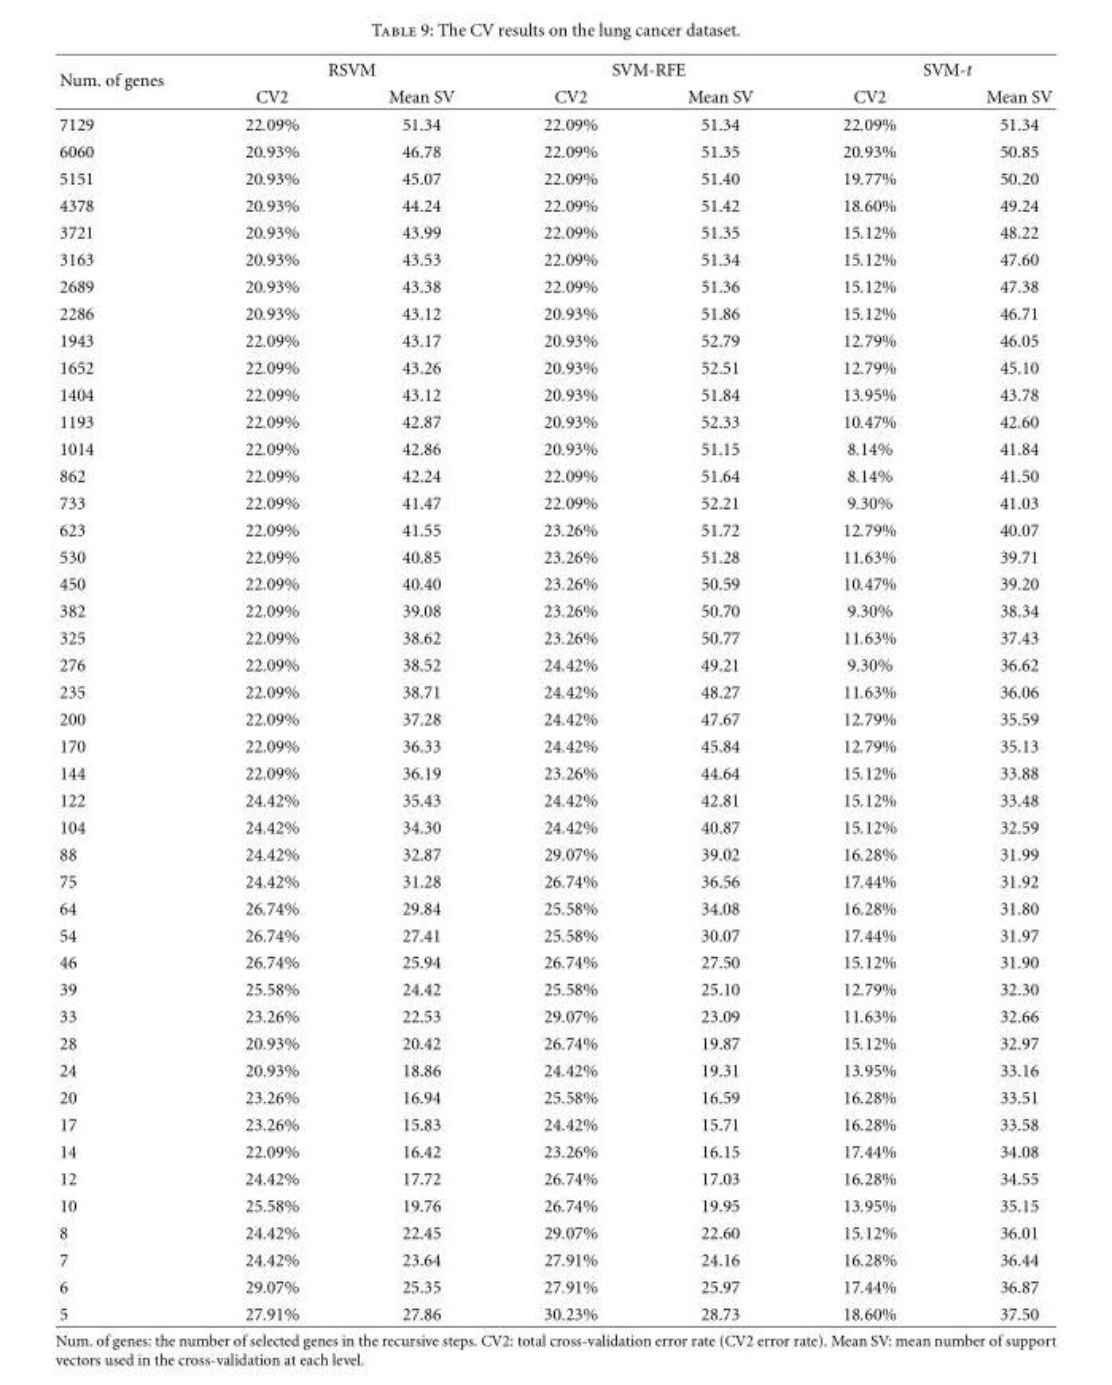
<table><thead><tr><td rowspan="2">Num. of genes</td><td colspan="2">RSVM</td><td colspan="2">SVM-RFE</td><td colspan="2">SVM-t</td></tr><tr><td>CV2</td><td>Mean SV</td><td>CV2</td><td>Mean SV</td><td>CV2</td><td>Mean SV</td></tr></thead><tbody><tr><td>7129</td><td>22.09%</td><td>51.34</td><td>22.09%</td><td>51.34</td><td>22.09%</td><td>51.34</td></tr><tr><td>6060</td><td>20.93%</td><td>46.78</td><td>22.09%</td><td>51.35</td><td>20.93%</td><td>50.85</td></tr><tr><td>5151</td><td>20.93%</td><td>45.07</td><td>22.09%</td><td>51.40</td><td>19.77%</td><td>50.20</td></tr><tr><td>4378</td><td>20.93%</td><td>44.24</td><td>22.09%</td><td>51.42</td><td>18.60%</td><td>49.24</td></tr><tr><td>3721</td><td>20.93%</td><td>43.99</td><td>22.09%</td><td>51.35</td><td>15.12%</td><td>48.22</td></tr><tr><td>3163</td><td>20.93%</td><td>43.53</td><td>22.09%</td><td>51.34</td><td>15.12%</td><td>47.60</td></tr><tr><td>2689</td><td>20.93%</td><td>43.38</td><td>22.09%</td><td>51.36</td><td>15.12%</td><td>47.38</td></tr><tr><td>2286</td><td>20.93%</td><td>43.12</td><td>20.93%</td><td>51.86</td><td>15.12%</td><td>46.71</td></tr><tr><td>1943</td><td>22.09%</td><td>43.17</td><td>20.93%</td><td>52.79</td><td>12.79%</td><td>46.05</td></tr><tr><td>1652</td><td>22.09%</td><td>43.26</td><td>20.93%</td><td>52.51</td><td>12.79%</td><td>45.10</td></tr><tr><td>1404</td><td>22.09%</td><td>43.12</td><td>20.93%</td><td>51.84</td><td>13.95%</td><td>43.78</td></tr><tr><td>1193</td><td>22.09%</td><td>42.87</td><td>20.93%</td><td>52.33</td><td>10.47%</td><td>42.60</td></tr><tr><td>1014</td><td>22.09%</td><td>42.86</td><td>20.93%</td><td>51.15</td><td>8.14%</td><td>41.84</td></tr><tr><td>862</td><td>22.09%</td><td>42.24</td><td>22.09%</td><td>51.64</td><td>8.14%</td><td>41.50</td></tr><tr><td>733</td><td>22.09%</td><td>41.47</td><td>22.09%</td><td>52.21</td><td>9.30%</td><td>41.03</td></tr><tr><td>623</td><td>22.09%</td><td>41.55</td><td>23.26%</td><td>51.72</td><td>12.79%</td><td>40.07</td></tr><tr><td>530</td><td>22.09%</td><td>40.85</td><td>23.26%</td><td>51.28</td><td>11.63%</td><td>39.71</td></tr><tr><td>450</td><td>22.09%</td><td>40.40</td><td>23.26%</td><td>50.59</td><td>10.47%</td><td>39.20</td></tr><tr><td>382</td><td>22.09%</td><td>39.08</td><td>23.26%</td><td>50.70</td><td>9.30%</td><td>38.34</td></tr><tr><td>325</td><td>22.09%</td><td>38.62</td><td>23.26%</td><td>50.77</td><td>11.63%</td><td>37.43</td></tr><tr><td>276</td><td>22.09%</td><td>38.52</td><td>24.42%</td><td>49.21</td><td>9.30%</td><td>36.62</td></tr><tr><td>235</td><td>22.09%</td><td>38.71</td><td>24.42%</td><td>48.27</td><td>11.63%</td><td>36.06</td></tr><tr><td>200</td><td>22.09%</td><td>37.28</td><td>24.42%</td><td>47.67</td><td>12.79%</td><td>35.59</td></tr><tr><td>170</td><td>22.09%</td><td>36.33</td><td>24.42%</td><td>45.84</td><td>12.79%</td><td>35.13</td></tr><tr><td>144</td><td>22.09%</td><td>36.19</td><td>23.26%</td><td>44.64</td><td>15.12%</td><td>33.88</td></tr><tr><td>122</td><td>24.42%</td><td>35.43</td><td>24.42%</td><td>42.81</td><td>15.12%</td><td>33.48</td></tr><tr><td>104</td><td>24.42%</td><td>34.30</td><td>24.42%</td><td>40.87</td><td>15.12%</td><td>32.59</td></tr><tr><td>88</td><td>24.42%</td><td>32.87</td><td>29.07%</td><td>39.02</td><td>16.28%</td><td>31.99</td></tr><tr><td>75</td><td>24.42%</td><td>31.28</td><td>26.74%</td><td>36.56</td><td>17.44%</td><td>31.92</td></tr><tr><td>64</td><td>26.74%</td><td>29.84</td><td>25.58%</td><td>34.08</td><td>16.28%</td><td>31.80</td></tr><tr><td>54</td><td>26.74%</td><td>27.41</td><td>25.58%</td><td>30.07</td><td>17.44%</td><td>31.97</td></tr><tr><td>46</td><td>26.74%</td><td>25.94</td><td>26.74%</td><td>27.50</td><td>15.12%</td><td>31.90</td></tr><tr><td>39</td><td>25.58%</td><td>24.42</td><td>25.58%</td><td>25.10</td><td>12.79%</td><td>32.30</td></tr><tr><td>33</td><td>23.26%</td><td>22.53</td><td>29.07%</td><td>23.09</td><td>11.63%</td><td>32.66</td></tr><tr><td>28</td><td>20.93%</td><td>20.42</td><td>26.74%</td><td>19.87</td><td>15.12%</td><td>32.97</td></tr><tr><td>24</td><td>20.93%</td><td>18.86</td><td>24.42%</td><td>19.31</td><td>13.95%</td><td>33.16</td></tr><tr><td>20</td><td>23.26%</td><td>16.94</td><td>25.58%</td><td>16.59</td><td>16.28%</td><td>33.51</td></tr><tr><td>17</td><td>23.26%</td><td>15.83</td><td>24.42%</td><td>15.71</td><td>16.28%</td><td>33.58</td></tr><tr><td>14</td><td>22.09%</td><td>16.42</td><td>23.26%</td><td>16.15</td><td>17.44%</td><td>34.08</td></tr><tr><td>12</td><td>24.42%</td><td>17.72</td><td>26.74%</td><td>17.03</td><td>16.28%</td><td>34.55</td></tr><tr><td>10</td><td>25.58%</td><td>19.76</td><td>26.74%</td><td>19.95</td><td>13.95%</td><td>35.15</td></tr><tr><td>8</td><td>24.42%</td><td>22.45</td><td>29.07%</td><td>22.60</td><td>15.12%</td><td>36.01</td></tr><tr><td>7</td><td>24.42%</td><td>23.64</td><td>27.91%</td><td>24.16</td><td>16.28%</td><td>36.44</td></tr><tr><td>6</td><td>29.07%</td><td>25.35</td><td>27.91%</td><td>25.97</td><td>17.44%</td><td>36.87</td></tr><tr><td>5</td><td>27.91%</td><td>27.86</td><td>30.23%</td><td>28.73</td><td>18.60%</td><td>37.50</td></tr></tbody></table>